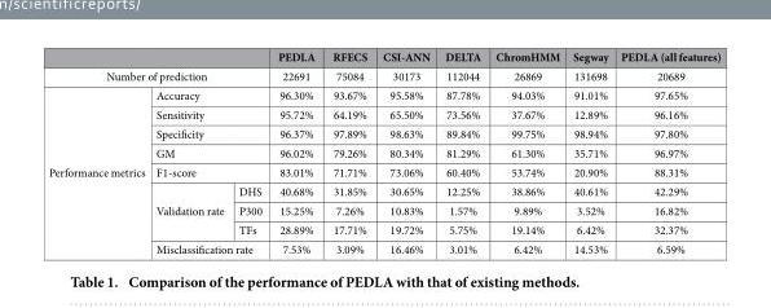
<table><thead><tr><td></td><td></td><td></td><td>PEDLA</td><td>RFECS</td><td>CSI-ANN</td><td>DELTA</td><td>ChromHMM</td><td>Segway</td><td>PEDLA (all features)</td></tr></thead><tbody><tr><td colspan="3">Number of prediction</td><td>22691</td><td>75084</td><td>30173</td><td>112044</td><td>26869</td><td>131698</td><td>20689</td></tr><tr><td rowspan="9">Performance metrics</td><td colspan="2">Accuracy</td><td>96.30%</td><td>93.67%</td><td>95.58%</td><td>87.78%</td><td>94.03%</td><td>91.01%</td><td>97.65%</td></tr><tr><td colspan="2">Sensitivity</td><td>95.72%</td><td>64.19%</td><td>65.50%</td><td>73.56%</td><td>37.67%</td><td>12.89%</td><td>96.16%</td></tr><tr><td colspan="2">Specificity</td><td>96.37%</td><td>97.89%</td><td>98.63%</td><td>89.84%</td><td>99.75%</td><td>98.94%</td><td>97.80%</td></tr><tr><td colspan="2">GM</td><td>96.02%</td><td>79.26%</td><td>80.34%</td><td>81.29%</td><td>61.30%</td><td>35.71%</td><td>96.97%</td></tr><tr><td colspan="2">F1-score</td><td>83.01%</td><td>71.71%</td><td>73.06%</td><td>60.40%</td><td>53.74%</td><td>20.90%</td><td>88.31%</td></tr><tr><td rowspan="3">Validation rate</td><td>DHS</td><td>40.68%</td><td>31.85%</td><td>30.65%</td><td>12.25%</td><td>38.86%</td><td>40.61%</td><td>42.29%</td></tr><tr><td>P300</td><td>15.25%</td><td>7.26%</td><td>10.83%</td><td>1.57%</td><td>9.89%</td><td>3.52%</td><td>16.82%</td></tr><tr><td>TFs</td><td>28.89%</td><td>17.71%</td><td>19.72%</td><td>5.75%</td><td>19.14%</td><td>6.42%</td><td>32.37%</td></tr><tr><td colspan="2">Misclassification rate</td><td>7.53%</td><td>3.09%</td><td>16.46%</td><td>3.01%</td><td>6.42%</td><td>14.53%</td><td>6.59%</td></tr></tbody></table>